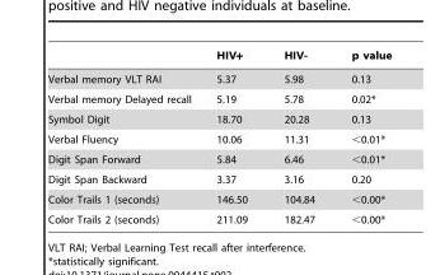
<table><thead><tr><td></td><td>HIV+</td><td>HIV-</td><td>p value</td></tr></thead><tbody><tr><td>Verbal memory VLT RAI</td><td>5.37</td><td>5.98</td><td>0.13</td></tr><tr><td>Verbal memory Delayed recall</td><td>5.19</td><td>5.78</td><td>0.02*</td></tr><tr><td>Symbol Digit</td><td>18.70</td><td>20.28</td><td>0.13</td></tr><tr><td>Verbal Fluency</td><td>10.06</td><td>11.31</td><td>&lt;0.01*</td></tr><tr><td>Digit Span Forward</td><td>5.84</td><td>6.46</td><td>&lt;0.01*</td></tr><tr><td>Digit Span Backward</td><td>3.37</td><td>3.16</td><td>0.20</td></tr><tr><td>Color Trails 1 (seconds)</td><td>146.50</td><td>104.84</td><td>&lt;0.00*</td></tr><tr><td>Color Trails 2 (seconds)</td><td>211.09</td><td>182.47</td><td>&lt;0.00*</td></tr></tbody></table>